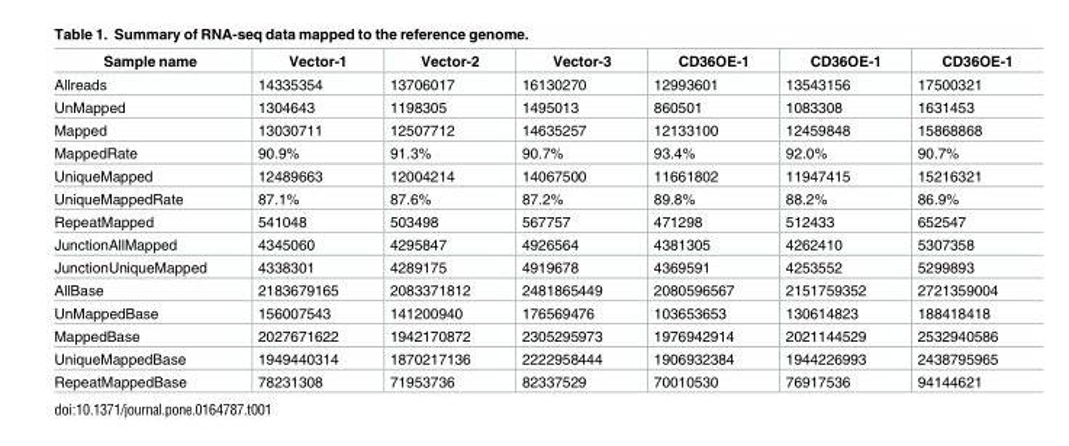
<table><thead><tr><td>Sample name</td><td>Vector-1</td><td>Vector-2</td><td>Vector-3</td><td>CD36OE-1</td><td>CD36OE-1</td><td>CD36OE-1</td></tr></thead><tbody><tr><td>Allreads</td><td>14335354</td><td>13706017</td><td>16130270</td><td>12993601</td><td>13543156</td><td>17500321</td></tr><tr><td>UnMapped</td><td>1304643</td><td>1198305</td><td>1495013</td><td>860501</td><td>1083308</td><td>1631453</td></tr><tr><td>Mapped</td><td>13030711</td><td>12507712</td><td>14635257</td><td>12133100</td><td>12459848</td><td>15868868</td></tr><tr><td>MappedRate</td><td>90.9%</td><td>91.3%</td><td>90.7%</td><td>93.4%</td><td>92.0%</td><td>90.7%</td></tr><tr><td>UniqueMapped</td><td>12489663</td><td>12004214</td><td>14067500</td><td>11661802</td><td>11947415</td><td>15216321</td></tr><tr><td>UniqueMappedRate</td><td>87.1%</td><td>87.6%</td><td>87.2%</td><td>89.8%</td><td>88.2%</td><td>86.9%</td></tr><tr><td>RepeatMapped</td><td>541048</td><td>503498</td><td>567757</td><td>471298</td><td>512433</td><td>652547</td></tr><tr><td>JunctionAllMapped</td><td>4345060</td><td>4295847</td><td>4926564</td><td>4381305</td><td>4262410</td><td>5307358</td></tr><tr><td>JunctionUniqueMapped</td><td>4338301</td><td>4289175</td><td>4919678</td><td>4369591</td><td>4253552</td><td>5299893</td></tr><tr><td>AllBase</td><td>2183679165</td><td>2083371812</td><td>2481865449</td><td>2080596567</td><td>2151759352</td><td>2721359004</td></tr><tr><td>UnMappedBase</td><td>156007543</td><td>141200940</td><td>176569476</td><td>103653653</td><td>130614823</td><td>188418418</td></tr><tr><td>MappedBase</td><td>2027671622</td><td>1942170872</td><td>2305295973</td><td>1976942914</td><td>2021144529</td><td>2532940586</td></tr><tr><td>UniqueMappedBase</td><td>1949440314</td><td>1870217136</td><td>2222958444</td><td>1906932384</td><td>1944226993</td><td>2438795965</td></tr><tr><td>RepeatMappedBase</td><td>78231308</td><td>71953736</td><td>82337529</td><td>70010530</td><td>76917536</td><td>94144621</td></tr></tbody></table>